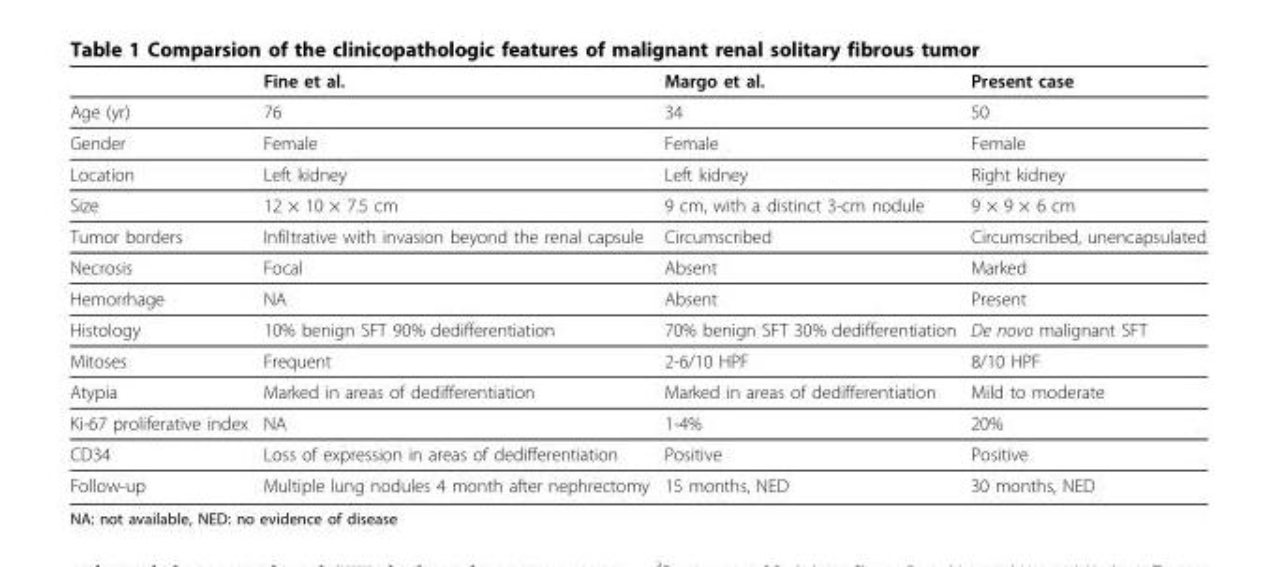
<table><thead><tr><td></td><td>Fine et al.</td><td>Margo et al.</td><td>Present case</td></tr></thead><tbody><tr><td>Age (yr)</td><td>76</td><td>34</td><td>50</td></tr><tr><td>Gender</td><td>Female</td><td>Female</td><td>Female</td></tr><tr><td>Location</td><td>Left kidney</td><td>Left kidney</td><td>Right kidney</td></tr><tr><td>Size</td><td>12 × 10 × 7.5 cm</td><td>9 cm, with a distinct 3-cm nodule</td><td>9 × 9 × 6 cm</td></tr><tr><td>Tumor borders</td><td>Infiltrative with invasion beyond the renal capsule</td><td>Circumscribed</td><td>Circumscribed, unencapsulated</td></tr><tr><td>Necrosis</td><td>Focal</td><td>Absent</td><td>Marked</td></tr><tr><td>Hemorrhage</td><td>NA</td><td>Absent</td><td>Present</td></tr><tr><td>Histology</td><td>10% benign SFT 90% dedifferentiation</td><td>70% benign SFT 30% dedifferentiation</td><td>De novo malignant SFT</td></tr><tr><td>Mitoses</td><td>Frequent</td><td>2-6/10 HPF</td><td>8/10 HPF</td></tr><tr><td>Atypia</td><td>Marked in areas of dedifferentiation</td><td>Marked in areas of dedifferentiation</td><td>Mild to moderate</td></tr><tr><td>Ki-67 proliferative index</td><td>NA</td><td>1-4%</td><td>20%</td></tr><tr><td>CD34</td><td>Loss of expression in areas of dedifferentiation</td><td>Positive</td><td>Positive</td></tr><tr><td>Follow-up</td><td>Multiple lung nodules 4 month after nephrectomy</td><td>15 months, NED</td><td>30 months, NED</td></tr></tbody></table>